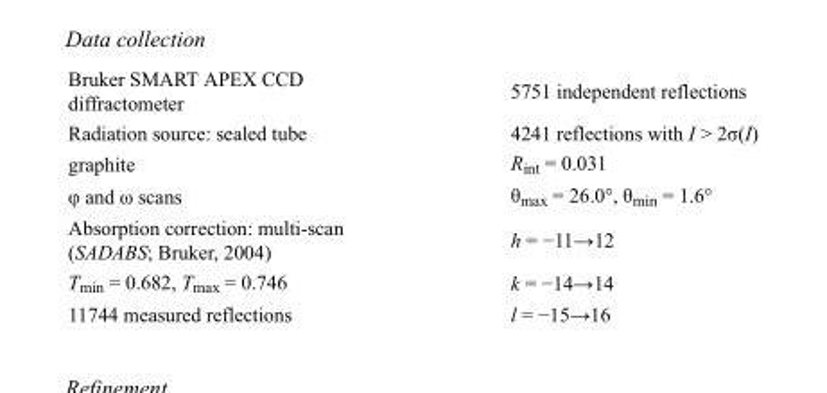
<table><tbody><tr><td>Bruker SMART APEX CCD diffractometer</td><td>5751 independent reflections</td></tr><tr><td>Radiation source: sealed tube</td><td>4241 reflections with I &gt; 2σ(I)</td></tr><tr><td>graphite</td><td>R<sub>int</sub> = 0.031</td></tr><tr><td>φ and ω scans</td><td>θ<sub>max</sub> = 26.0°, θ<sub>min</sub> = 1.6°</td></tr><tr><td>Absorption correction: multi-scan (SADABS; Bruker, 2004)</td><td>h = −11→12</td></tr><tr><td>T<sub>min</sub> = 0.682, T<sub>max</sub> = 0.746</td><td>k = −14→14</td></tr><tr><td>11744 measured reflections</td><td>l = −15→16</td></tr></tbody></table>